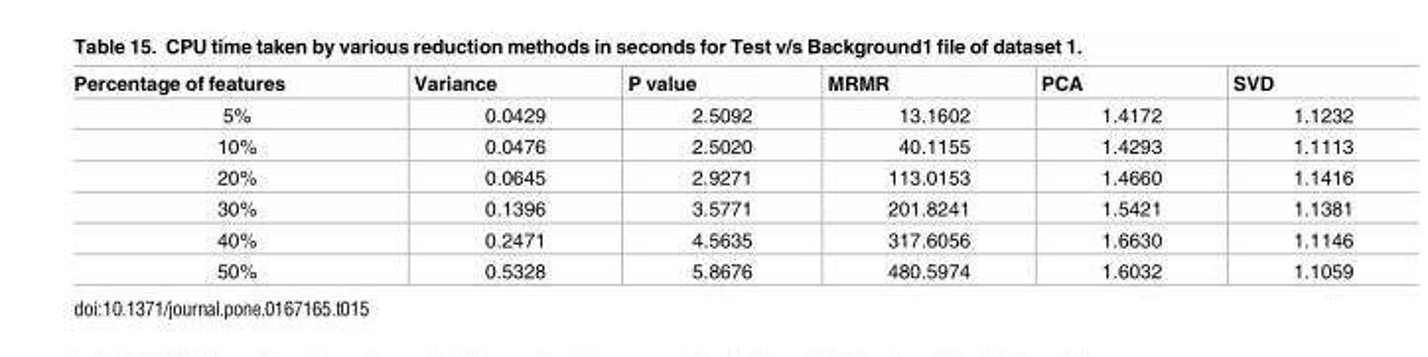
<table><thead><tr><td>Percentage of features</td><td>Variance</td><td>P value</td><td>MRMR</td><td>PCA</td><td>SVD</td></tr></thead><tbody><tr><td>5%</td><td>0.0429</td><td>2.5092</td><td>13.1602</td><td>1.4172</td><td>1.1232</td></tr><tr><td>10%</td><td>0.0476</td><td>2.5020</td><td>40.1155</td><td>1.4293</td><td>1.1113</td></tr><tr><td>20%</td><td>0.0645</td><td>2.9271</td><td>113.0153</td><td>1.4660</td><td>1.1416</td></tr><tr><td>30%</td><td>0.1396</td><td>3.5771</td><td>201.8241</td><td>1.5421</td><td>1.1381</td></tr><tr><td>40%</td><td>0.2471</td><td>4.5635</td><td>317.6056</td><td>1.6630</td><td>1.1146</td></tr><tr><td>50%</td><td>0.5328</td><td>5.8676</td><td>480.5974</td><td>1.6032</td><td>1.1059</td></tr></tbody></table>